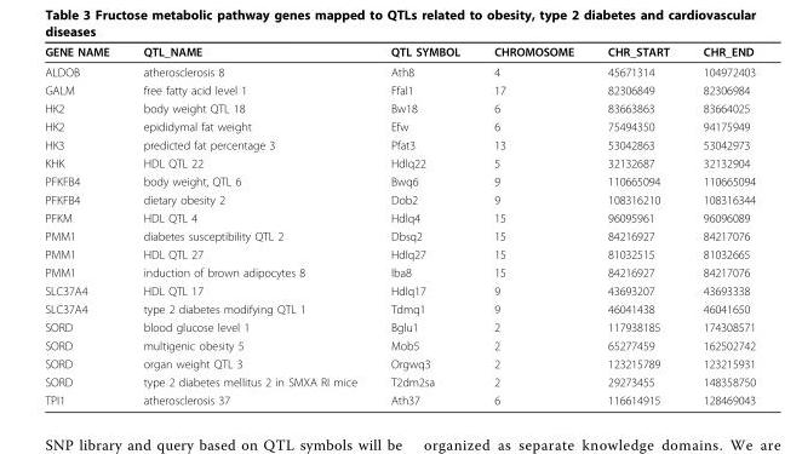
<table><thead><tr><td>GENE NAME</td><td>QTL_NAME</td><td>QTL SYMBOL</td><td>CHROMOSOME</td><td>CHR_START</td><td>CHR_END</td></tr></thead><tbody><tr><td>ALDOB</td><td>atherosclerosis 8</td><td>Ath8</td><td>4</td><td>45671314</td><td>104972403</td></tr><tr><td>GALM</td><td>free fatty acid level 1</td><td>Ffal1</td><td>17</td><td>82306849</td><td>82306984</td></tr><tr><td>HK2</td><td>body weight QTL 18</td><td>Bw18</td><td>6</td><td>83663863</td><td>83664025</td></tr><tr><td>HK2</td><td>epididymal fat weight</td><td>Efw</td><td>6</td><td>75494350</td><td>94175949</td></tr><tr><td>HK3</td><td>predicted fat percentage 3</td><td>Pfat3</td><td>13</td><td>53042863</td><td>53042973</td></tr><tr><td>KHK</td><td>HDL QTL 22</td><td>Hdlq22</td><td>5</td><td>32132687</td><td>32132904</td></tr><tr><td>PFKFB4</td><td>body weight, QTL 6</td><td>Bwq6</td><td>9</td><td>110665094</td><td>110665094</td></tr><tr><td>PFKFB4</td><td>dietary obesity 2</td><td>Dob2</td><td>9</td><td>108316210</td><td>108316344</td></tr><tr><td>PFKM</td><td>HDL QTL 4</td><td>Hdlq4</td><td>15</td><td>96095961</td><td>96096089</td></tr><tr><td>PMM1</td><td>diabetes susceptibility QTL 2</td><td>Dbsq2</td><td>15</td><td>84216927</td><td>84217076</td></tr><tr><td>PMM1</td><td>HDL QTL 27</td><td>Hdlq27</td><td>15</td><td>81032515</td><td>81032665</td></tr><tr><td>PMM1</td><td>induction of brown adipocytes 8</td><td>Iba8</td><td>15</td><td>84216927</td><td>84217076</td></tr><tr><td>SLC37A4</td><td>HDL QTL 17</td><td>Hdlq17</td><td>9</td><td>43693207</td><td>43693338</td></tr><tr><td>SLC37A4</td><td>type 2 diabetes modifying QTL 1</td><td>Tdmq1</td><td>9</td><td>46041438</td><td>46041650</td></tr><tr><td>SORD</td><td>blood glucose level 1</td><td>Bglu1</td><td>2</td><td>117938185</td><td>174308571</td></tr><tr><td>SORD</td><td>multigenic obesity 5</td><td>Mob5</td><td>2</td><td>65277459</td><td>162502742</td></tr><tr><td>SORD</td><td>organ weight QTL 3</td><td>Orgwq3</td><td>2</td><td>123215789</td><td>123215931</td></tr><tr><td>SORD</td><td>type 2 diabetes mellitus 2 in SMXA RI mice</td><td>T2dm2sa</td><td>2</td><td>29273455</td><td>148358750</td></tr><tr><td>TPI1</td><td>atherosclerosis 37</td><td>Ath37</td><td>6</td><td>116614915</td><td>128469043</td></tr></tbody></table>